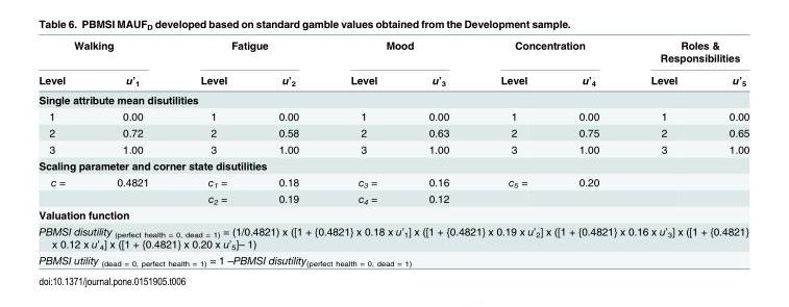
<table><thead><tr><td colspan="2">Walking</td><td colspan="2">Fatigue</td><td colspan="2">Mood</td><td colspan="2">Concentration</td><td colspan="2">Roles &amp; Responsibilities</td></tr><tr><td>Level</td><td>u’<sub>1</sub></td><td>Level</td><td>u’<sub>2</sub></td><td>Level</td><td>u’<sub>3</sub></td><td>Level</td><td>u’<sub>4</sub></td><td>Level</td><td>u’<sub>5</sub></td></tr></thead><tbody><tr><td colspan="10">Single attribute mean disutilities</td></tr><tr><td>1</td><td>0.00</td><td>1</td><td>0.00</td><td>1</td><td>0.00</td><td>1</td><td>0.00</td><td>1</td><td>0.00</td></tr><tr><td>2</td><td>0.72</td><td>2</td><td>0.58</td><td>2</td><td>0.63</td><td>2</td><td>0.75</td><td>2</td><td>0.65</td></tr><tr><td>3</td><td>1.00</td><td>3</td><td>1.00</td><td>3</td><td>1.00</td><td>3</td><td>1.00</td><td>3</td><td>1.00</td></tr><tr><td colspan="10">Scaling parameter and corner state disutilities</td></tr><tr><td rowspan="2">c =</td><td>0.4821</td><td>c<sub>1</sub> =</td><td>0.18</td><td>c<sub>3</sub> =</td><td>0.16</td><td>c<sub>5</sub> =</td><td>0.20</td><td></td><td></td></tr><tr><td></td><td>c<sub>2</sub> =</td><td>0.19</td><td>c<sub>4</sub> =</td><td>0.12</td><td></td><td></td><td></td><td></td></tr><tr><td colspan="10">Valuation function</td></tr><tr><td colspan="10">PBMSI disutility <sub>(perfect health = 0, dead = 1)</sub> = (1/0.4821) x ([1 + {0.4821} x 0.18 x u’<sub>1</sub>] x ([1 + {0.4821} x 0.19 x u’<sub>2</sub>] x ([1 + {0.4821} x 0.16 x u’<sub>3</sub>] x ([1 + {0.4821} x 0.12 x u’<sub>4</sub>] x ([1 + {0.4821} x 0.20 x u’<sub>5</sub>]– 1)</td></tr><tr><td colspan="10">PBMSI utility <sub>(dead = 0, perfect health = 1)</sub> = 1 –PBMSI disutility<sub>(perfect health = 0, dead = 1)</sub></td></tr></tbody></table>